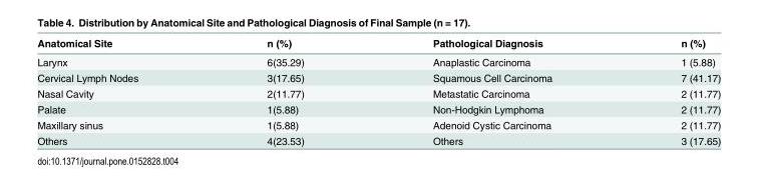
<table><thead><tr><td>Anatomical Site</td><td>n (%)</td><td>Pathological Diagnosis</td><td>n (%)</td></tr></thead><tbody><tr><td>Larynx</td><td>6(35.29)</td><td>Anaplastic Carcinoma</td><td>1 (5.88)</td></tr><tr><td>Cervical Lymph Nodes</td><td>3(17.65)</td><td>Squamous Cell Carcinoma</td><td>7 (41.17)</td></tr><tr><td>Nasal Cavity</td><td>2(11.77)</td><td>Metastatic Carcinoma</td><td>2 (11.77)</td></tr><tr><td>Palate</td><td>1(5.88)</td><td>Non-Hodgkin Lymphoma</td><td>2 (11.77)</td></tr><tr><td>Maxillary sinus</td><td>1(5.88)</td><td>Adenoid Cystic Carcinoma</td><td>2 (11.77)</td></tr><tr><td>Others</td><td>4(23.53)</td><td>Others</td><td>3 (17.65)</td></tr></tbody></table>